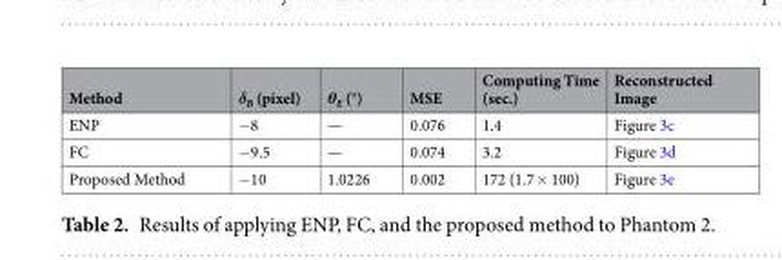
<table><thead><tr><td>Method</td><td>δ<sub>B</sub> (pixel)</td><td>θ<sub>E</sub> (°)</td><td>MSE</td><td>Computing Time (sec.)</td><td>Reconstructed Image</td></tr></thead><tbody><tr><td>ENP</td><td>−8</td><td>—</td><td>0.076</td><td>1.4</td><td>Figure 3c</td></tr><tr><td>FC</td><td>−9.5</td><td>—</td><td>0.074</td><td>3.2</td><td>Figure 3d</td></tr><tr><td>Proposed Method</td><td>−10</td><td>1.0226</td><td>0.002</td><td>172 (1.7 × 100)</td><td>Figure 3e</td></tr></tbody></table>